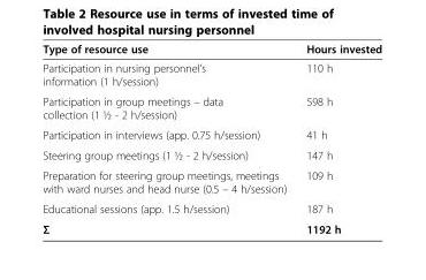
<table><thead><tr><td>Type of resource use</td><td>Hours invested</td></tr></thead><tbody><tr><td>Participation in nursing personnel’s information (1 h/session)</td><td>110 h</td></tr><tr><td>Participation in group meetings – data collection (1 ½ - 2 h/session)</td><td>598 h</td></tr><tr><td>Participation in interviews (app. 0.75 h/session)</td><td>41 h</td></tr><tr><td>Steering group meetings (1 ½ - 2 h/session)</td><td>147 h</td></tr><tr><td>Preparation for steering group meetings, meetings with ward nurses and head nurse (0.5 – 4 h/session)</td><td>109 h</td></tr><tr><td>Educational sessions (app. 1.5 h/session)</td><td>187 h</td></tr><tr><td>Σ</td><td>1192 h</td></tr></tbody></table>